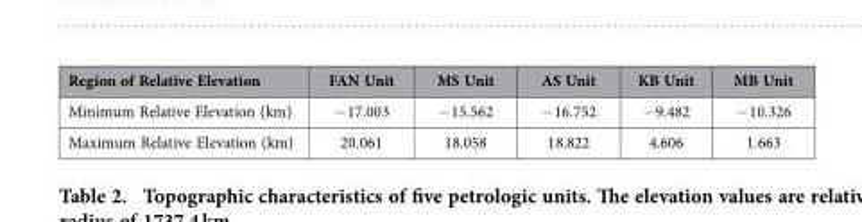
<table><thead><tr><td>Region of Relative Elevation</td><td>FAN Unit</td><td>MS Unit</td><td>AS Unit</td><td>KB Unit</td><td>MB Unit</td></tr></thead><tbody><tr><td>Minimum Relative Elevation (km)</td><td>− 17.003</td><td>− 15.562</td><td>− 16.752</td><td>− 9.482</td><td>− 10.326</td></tr><tr><td>Maximum Relative Elevation (km)</td><td>20.061</td><td>18.058</td><td>18.822</td><td>4.606</td><td>1.663</td></tr></tbody></table>